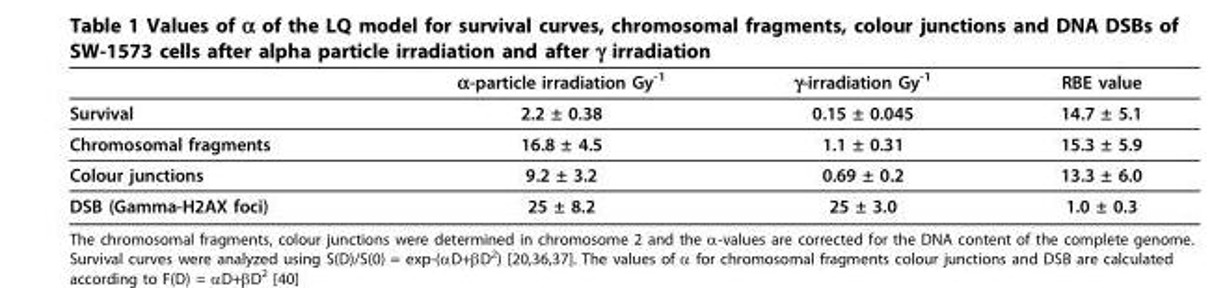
<table><thead><tr><td></td><td>α-particle irradiation Gy<sup>-1</sup></td><td>γ-irradiation Gy<sup>-1</sup></td><td>RBE value</td></tr></thead><tbody><tr><td>Survival</td><td>2.2 ± 0.38</td><td>0.15 ± 0.045</td><td>14.7 ± 5.1</td></tr><tr><td>Chromosomal fragments</td><td>16.8 ± 4.5</td><td>1.1 ± 0.31</td><td>15.3 ± 5.9</td></tr><tr><td>Colour junctions</td><td>9.2 ± 3.2</td><td>0.69 ± 0.2</td><td>13.3 ± 6.0</td></tr><tr><td>DSB (Gamma-H2AX foci)</td><td>25 ± 8.2</td><td>25 ± 3.0</td><td>1.0 ± 0.3</td></tr></tbody></table>